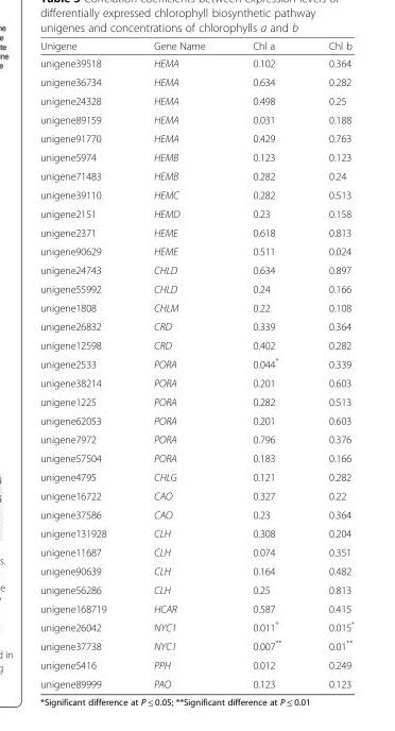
<table><thead><tr><td>Unigene</td><td>Gene Name</td><td>Chl a</td><td>Chl b</td></tr></thead><tbody><tr><td>unigene39518</td><td>HEMA</td><td>0.102</td><td>0.364</td></tr><tr><td>unigene36734</td><td>HEMA</td><td>0.634</td><td>0.282</td></tr><tr><td>unigene24328</td><td>HEMA</td><td>0.498</td><td>0.25</td></tr><tr><td>unigene89159</td><td>HEMA</td><td>0.031</td><td>0.188</td></tr><tr><td>unigene91770</td><td>HEMA</td><td>0.429</td><td>0.763</td></tr><tr><td>unigene5974</td><td>HEMB</td><td>0.123</td><td>0.123</td></tr><tr><td>unigene71483</td><td>HEMB</td><td>0.282</td><td>0.24</td></tr><tr><td>unigene39110</td><td>HEMC</td><td>0.282</td><td>0.513</td></tr><tr><td>unigene2151</td><td>HEMD</td><td>0.23</td><td>0.158</td></tr><tr><td>unigene2371</td><td>HEME</td><td>0.618</td><td>0.813</td></tr><tr><td>unigene90629</td><td>HEME</td><td>0.511</td><td>0.024</td></tr><tr><td>unigene24743</td><td>CHLD</td><td>0.634</td><td>0.897</td></tr><tr><td>unigene55992</td><td>CHLD</td><td>0.24</td><td>0.166</td></tr><tr><td>unigene1808</td><td>CHLM</td><td>0.22</td><td>0.108</td></tr><tr><td>unigene26832</td><td>CRD</td><td>0.339</td><td>0.364</td></tr><tr><td>unigene12598</td><td>CRD</td><td>0.402</td><td>0.282</td></tr><tr><td>unigene2533</td><td>PORA</td><td>0.044*</td><td>0.339</td></tr><tr><td>unigene38214</td><td>PORA</td><td>0.201</td><td>0.603</td></tr><tr><td>unigene1225</td><td>PORA</td><td>0.282</td><td>0.513</td></tr><tr><td>unigene62053</td><td>PORA</td><td>0.201</td><td>0.603</td></tr><tr><td>unigene7972</td><td>PORA</td><td>0.796</td><td>0.376</td></tr><tr><td>unigene57504</td><td>PORA</td><td>0.183</td><td>0.166</td></tr><tr><td>unigene4795</td><td>CHLG</td><td>0.121</td><td>0.282</td></tr><tr><td>unigene16722</td><td>CAO</td><td>0.327</td><td>0.22</td></tr><tr><td>unigene37586</td><td>CAO</td><td>0.23</td><td>0.364</td></tr><tr><td>unigene131928</td><td>CLH</td><td>0.308</td><td>0.204</td></tr><tr><td>unigene11687</td><td>CLH</td><td>0.074</td><td>0.351</td></tr><tr><td>unigene90639</td><td>CLH</td><td>0.164</td><td>0.482</td></tr><tr><td>unigene56286</td><td>CLH</td><td>0.25</td><td>0.813</td></tr><tr><td>unigene168719</td><td>HCAR</td><td>0.587</td><td>0.415</td></tr><tr><td>unigene26042</td><td>NYC1</td><td>0.011*</td><td>0.015*</td></tr><tr><td>unigene37738</td><td>NYC1</td><td>0.007**</td><td>0.01**</td></tr><tr><td>unigene5416</td><td>PPH</td><td>0.012</td><td>0.249</td></tr><tr><td>unigene89999</td><td>PAO</td><td>0.123</td><td>0.123</td></tr></tbody></table>